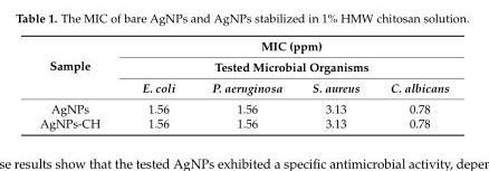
<table><thead><tr><td rowspan="3">Sample</td><td rowspan="2" colspan="4">MIC (ppm) Tested Microbial Organisms</td></tr><tr></tr><tr><td>E. coli</td><td>P. aeruginosa</td><td>S. aureus</td><td>C. albicans</td></tr></thead><tbody><tr><td>AgNPs</td><td>1.56</td><td>1.56</td><td>3.13</td><td>0.78</td></tr><tr><td>AgNPs-CH</td><td>1.56</td><td>1.56</td><td>3.13</td><td>0.78</td></tr></tbody></table>